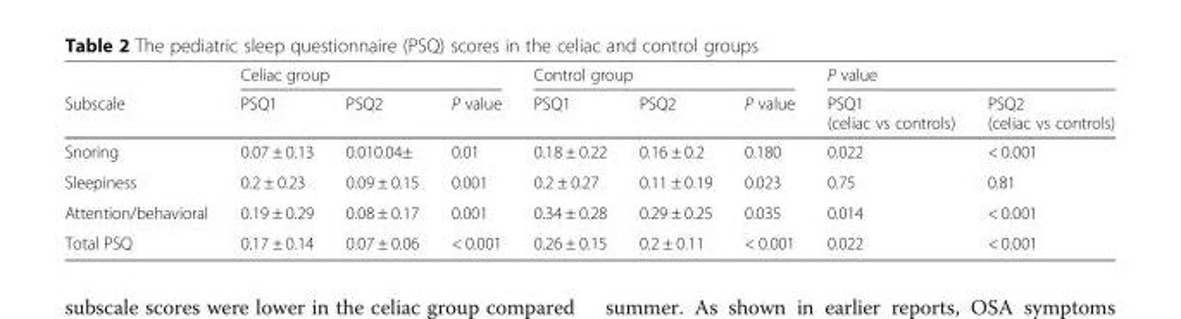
<table><thead><tr><td rowspan="2">Subscale</td><td colspan="3">Celiac group</td><td colspan="3">Control group</td><td colspan="2">P value</td></tr><tr><td>PSQ1</td><td>PSQ2</td><td>P value</td><td>PSQ1</td><td>PSQ2</td><td>P value</td><td>PSQ1 (celiac vs controls)</td><td>PSQ2 (celiac vs controls)</td></tr></thead><tbody><tr><td>Snoring</td><td>0.07 ± 0.13</td><td>0.010.04±</td><td>0.01</td><td>0.18 ± 0.22</td><td>0.16 ± 0.2</td><td>0.180</td><td>0.022</td><td>&lt; 0.001</td></tr><tr><td>Sleepiness</td><td>0.2 ± 0.23</td><td>0.09 ± 0.15</td><td>0.001</td><td>0.2 ± 0.27</td><td>0.11 ± 0.19</td><td>0.023</td><td>0.75</td><td>0.81</td></tr><tr><td>Attention/behavioral</td><td>0.19 ± 0.29</td><td>0.08 ± 0.17</td><td>0.001</td><td>0.34 ± 0.28</td><td>0.29 ± 0.25</td><td>0.035</td><td>0.014</td><td>&lt; 0.001</td></tr><tr><td>Total PSQ</td><td>0.17 ± 0.14</td><td>0.07 ± 0.06</td><td>&lt; 0.001</td><td>0.26 ± 0.15</td><td>0.2 ± 0.11</td><td>&lt; 0.001</td><td>0.022</td><td>&lt; 0.001</td></tr></tbody></table>